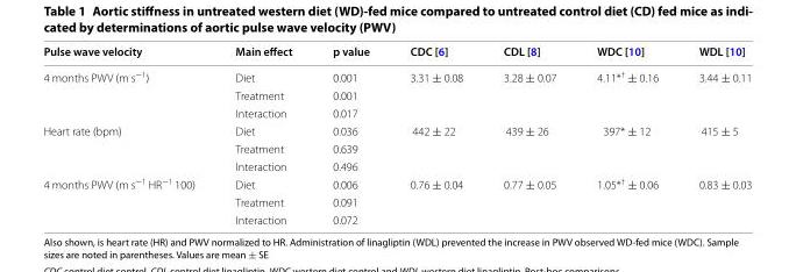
<table><thead><tr><td>Pulse wave velocity</td><td>Main effect</td><td>p value</td><td>CDC [6]</td><td>CDL [8]</td><td>WDC [10]</td><td>WDL [10]</td></tr></thead><tbody><tr><td rowspan="3">4 months PWV (m s<sup>−1</sup>)</td><td>Diet</td><td>0.001</td><td rowspan="3">3.31 ± 0.08</td><td rowspan="3">3.28 ± 0.07</td><td rowspan="3">4.11*<sup>†</sup> ± 0.16</td><td rowspan="3">3.44 ± 0.11</td></tr><tr><td>Treatment</td><td>0.001</td></tr><tr><td>Interaction</td><td>0.017</td></tr><tr><td rowspan="3">Heart rate (bpm)</td><td>Diet</td><td>0.036</td><td rowspan="3">442 ± 22</td><td rowspan="3">439 ± 26</td><td rowspan="3">397* ± 12</td><td rowspan="3">415 ± 5</td></tr><tr><td>Treatment</td><td>0.639</td></tr><tr><td>Interaction</td><td>0.496</td></tr><tr><td rowspan="3">4 months PWV (m s<sup>−1</sup> HR<sup>−1</sup> 100)</td><td>Diet</td><td>0.006</td><td rowspan="3">0.76 ± 0.04</td><td rowspan="3">0.77 ± 0.05</td><td rowspan="3">1.05*<sup>†</sup> ± 0.06</td><td rowspan="3">0.83 ± 0.03</td></tr><tr><td>Treatment</td><td>0.091</td></tr><tr><td>Interaction</td><td>0.072</td></tr></tbody></table>